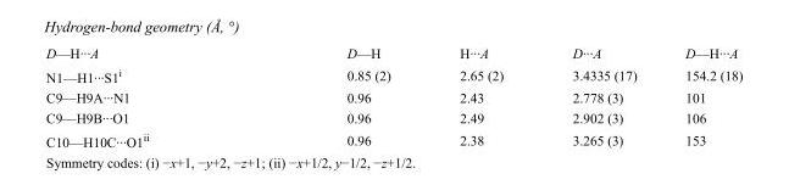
<table><tbody><tr><td>D—H···A</td><td>D—H</td><td>H···A</td><td>D···A</td><td>D—H···A</td></tr><tr><td>N1—H1···S1<sup>i</sup></td><td>0.85 (2)</td><td>2.65 (2)</td><td>3.4335 (17)</td><td>154.2 (18)</td></tr><tr><td>C9—H9A···N1</td><td>0.96</td><td>2.43</td><td>2.778 (3)</td><td>101</td></tr><tr><td>C9—H9B···O1</td><td>0.96</td><td>2.49</td><td>2.902 (3)</td><td>106</td></tr><tr><td>C10—H10C···O1<sup>ii</sup></td><td>0.96</td><td>2.38</td><td>3.265 (3)</td><td>153</td></tr></tbody></table>